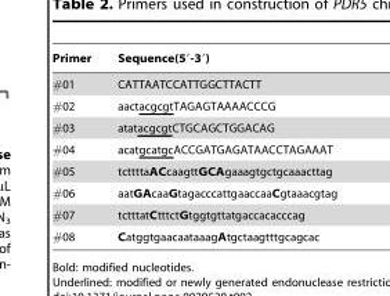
<table><thead><tr><td>Primer</td><td>Sequence(5′-3′)</td></tr></thead><tbody><tr><td>#01</td><td>CATTAATCCATTGGCTTACTT</td></tr><tr><td>#02</td><td>aactacgcgtTAGAGTAAAACCCG</td></tr><tr><td>#03</td><td>atatacgcgtCTGCAGCTGGACAG</td></tr><tr><td>#04</td><td>acatgcatgcACCGATGAGATAACCTAGAAAT</td></tr><tr><td>#05</td><td>tcttttaACcaagttGCAgaaagtgctgcaaacttag</td></tr><tr><td>#06</td><td>aatGAcaaGtagacccattgaaccaaCgtaaacgtag</td></tr><tr><td>#07</td><td>tctttatCtttctGtggtgttatgaccacacccag</td></tr><tr><td>#08</td><td>CatggtgaacaataaagAtgctaagtttgcagcac</td></tr></tbody></table>